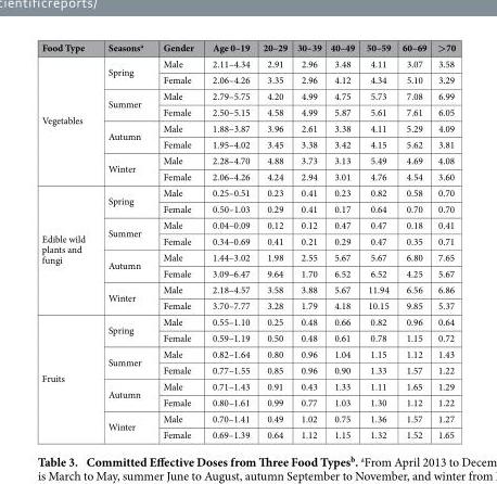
<table><thead><tr><td>Food Type</td><td>Seasons<sup>a</sup></td><td>Gender</td><td>Age 0–19</td><td>20–29</td><td>30–39</td><td>40–49</td><td>50–59</td><td>60–69</td><td>&gt;70</td></tr></thead><tbody><tr><td rowspan="8">Vegetables</td><td rowspan="2">Spring</td><td>Male</td><td>2.11–4.34</td><td>2.91</td><td>2.96</td><td>3.48</td><td>4.11</td><td>3.07</td><td>3.58</td></tr><tr><td>Female</td><td>2.06–4.26</td><td>3.35</td><td>2.96</td><td>4.12</td><td>4.34</td><td>5.10</td><td>3.29</td></tr><tr><td rowspan="2">Summer</td><td>Male</td><td>2.79–5.75</td><td>4.20</td><td>4.99</td><td>4.75</td><td>5.73</td><td>7.08</td><td>6.99</td></tr><tr><td>Female</td><td>2.50–5.15</td><td>4.58</td><td>4.99</td><td>5.87</td><td>5.61</td><td>7.61</td><td>6.05</td></tr><tr><td rowspan="2">Autumn</td><td>Male</td><td>1.88–3.87</td><td>3.96</td><td>2.61</td><td>3.38</td><td>4.11</td><td>5.29</td><td>4.09</td></tr><tr><td>Female</td><td>1.95–4.02</td><td>3.45</td><td>3.38</td><td>3.42</td><td>4.15</td><td>5.62</td><td>3.81</td></tr><tr><td rowspan="2">Winter</td><td>Male</td><td>2.28–4.70</td><td>4.88</td><td>3.73</td><td>3.13</td><td>5.49</td><td>4.69</td><td>4.08</td></tr><tr><td>Female</td><td>2.06–4.26</td><td>4.24</td><td>2.94</td><td>3.01</td><td>4.76</td><td>4.54</td><td>3.60</td></tr><tr><td rowspan="8">Edible wild plants and fungi</td><td rowspan="2">Spring</td><td>Male</td><td>0.25–0.51</td><td>0.23</td><td>0.41</td><td>0.23</td><td>0.82</td><td>0.58</td><td>0.70</td></tr><tr><td>Female</td><td>0.50–1.03</td><td>0.29</td><td>0.41</td><td>0.17</td><td>0.64</td><td>0.70</td><td>0.70</td></tr><tr><td rowspan="2">Summer</td><td>Male</td><td>0.04–0.09</td><td>0.12</td><td>0.12</td><td>0.47</td><td>0.47</td><td>0.18</td><td>0.41</td></tr><tr><td>Female</td><td>0.34–0.69</td><td>0.41</td><td>0.21</td><td>0.29</td><td>0.47</td><td>0.35</td><td>0.71</td></tr><tr><td rowspan="2">Autumn</td><td>Male</td><td>1.44–3.02</td><td>1.98</td><td>2.55</td><td>5.67</td><td>5.67</td><td>6.80</td><td>7.65</td></tr><tr><td>Female</td><td>3.09–6.47</td><td>9.64</td><td>1.70</td><td>6.52</td><td>6.52</td><td>4.25</td><td>5.67</td></tr><tr><td rowspan="2">Winter</td><td>Male</td><td>2.18–4.57</td><td>3.58</td><td>3.88</td><td>5.67</td><td>11.94</td><td>6.56</td><td>6.86</td></tr><tr><td>Female</td><td>3.70–7.77</td><td>3.28</td><td>1.79</td><td>4.18</td><td>10.15</td><td>9.85</td><td>5.37</td></tr><tr><td rowspan="8">Fruits</td><td rowspan="2">Spring</td><td>Male</td><td>0.55–1.10</td><td>0.25</td><td>0.48</td><td>0.66</td><td>0.82</td><td>0.96</td><td>0.64</td></tr><tr><td>Female</td><td>0.59–1.19</td><td>0.50</td><td>0.48</td><td>0.61</td><td>0.78</td><td>1.15</td><td>0.72</td></tr><tr><td rowspan="2">Summer</td><td>Male</td><td>0.82–1.64</td><td>0.80</td><td>0.96</td><td>1.04</td><td>1.15</td><td>1.12</td><td>1.43</td></tr><tr><td>Female</td><td>0.77–1.55</td><td>0.85</td><td>0.96</td><td>0.90</td><td>1.33</td><td>1.57</td><td>1.22</td></tr><tr><td rowspan="2">Autumn</td><td>Male</td><td>0.71–1.43</td><td>0.91</td><td>0.43</td><td>1.33</td><td>1.11</td><td>1.65</td><td>1.29</td></tr><tr><td>Female</td><td>0.80–1.61</td><td>0.99</td><td>0.77</td><td>1.03</td><td>1.30</td><td>1.12</td><td>1.22</td></tr><tr><td rowspan="2">Winter</td><td>Male</td><td>0.70–1.41</td><td>0.49</td><td>1.02</td><td>0.75</td><td>1.36</td><td>1.57</td><td>1.27</td></tr><tr><td>Female</td><td>0.69–1.39</td><td>0.64</td><td>1.12</td><td>1.15</td><td>1.32</td><td>1.52</td><td>1.65</td></tr></tbody></table>